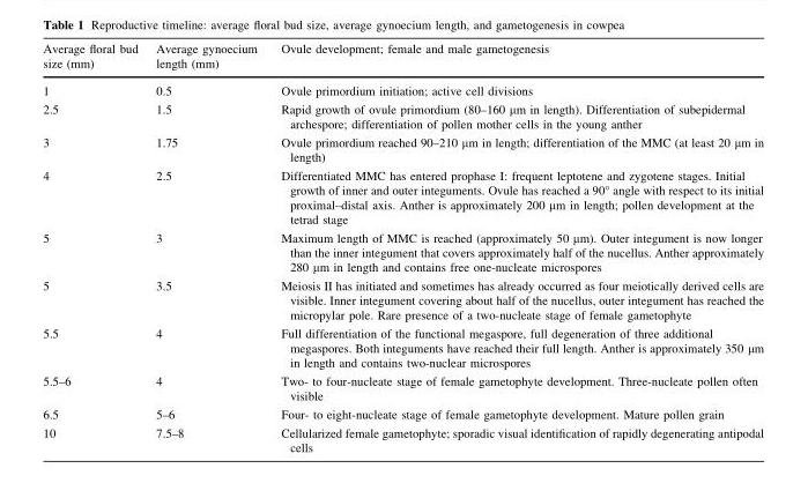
<table><thead><tr><td>Average floral bud size (mm)</td><td>Average gynoecium length (mm)</td><td>Ovule development; female and male gametogenesis</td></tr></thead><tbody><tr><td>1</td><td>0.5</td><td>Ovule primordium initiation; active cell divisions</td></tr><tr><td>2.5</td><td>1.5</td><td>Rapid growth of ovule primordium (80–160 μm in length). Differentiation of subepidermal archespore; differentiation of pollen mother cells in the young anther</td></tr><tr><td>3</td><td>1.75</td><td>Ovule primordium reached 90–210 μm in length; differentiation of the MMC (at least 20 μm in length)</td></tr><tr><td>4</td><td>2.5</td><td>Differentiated MMC has entered prophase I: frequent leptotene and zygotene stages. Initial growth of inner and outer integuments. Ovule has reached a 90° angle with respect to its initial proximal–distal axis. Anther is approximately 200 μm in length; pollen development at the tetrad stage</td></tr><tr><td>5</td><td>3</td><td>Maximum length of MMC is reached (approximately 50 μm). Outer integument is now longer than the inner integument that covers approximately half of the nucellus. Anther approximately 280 μm in length and contains free one-nucleate microspores</td></tr><tr><td>5</td><td>3.5</td><td>Meiosis II has initiated and sometimes has already occurred as four meiotically derived cells are visible. Inner integument covering about half of the nucellus, outer integument has reached the micropylar pole. Rare presence of a two-nucleate stage of female gametophyte</td></tr><tr><td>5.5</td><td>4</td><td>Full differentiation of the functional megaspore, full degeneration of three additional megaspores. Both integuments have reached their full length. Anther is approximately 350 μm in length and contains two-nuclear microspores</td></tr><tr><td>5.5–6</td><td>4</td><td>Two- to four-nucleate stage of female gametophyte development. Three-nucleate pollen often visible</td></tr><tr><td>6.5</td><td>5–6</td><td>Four- to eight-nucleate stage of female gametophyte development. Mature pollen grain</td></tr><tr><td>10</td><td>7.5–8</td><td>Cellularized female gametophyte; sporadic visual identification of rapidly degenerating antipodal cells</td></tr></tbody></table>